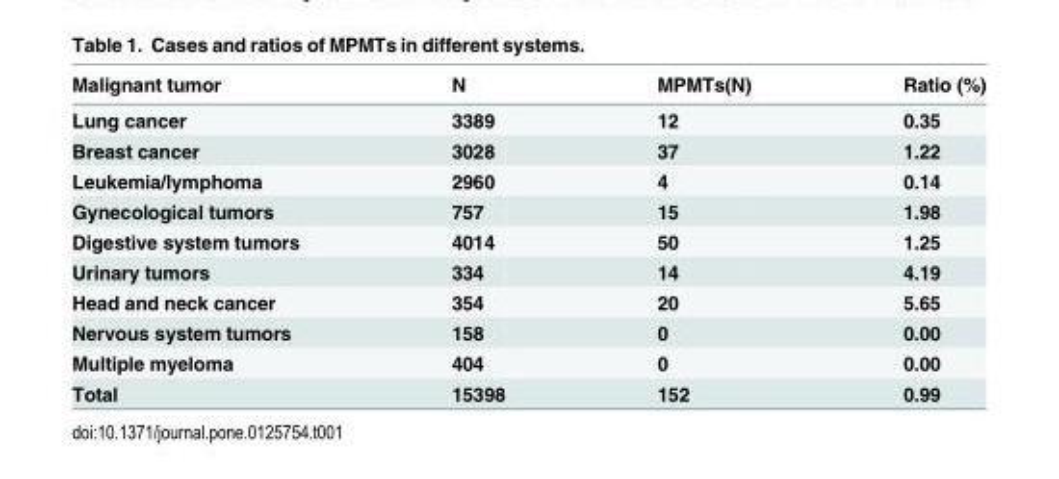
<table><thead><tr><td>Malignant tumor</td><td>N</td><td>MPMTs(N)</td><td>Ratio (%)</td></tr></thead><tbody><tr><td>Lung cancer</td><td>3389</td><td>12</td><td>0.35</td></tr><tr><td>Breast cancer</td><td>3028</td><td>37</td><td>1.22</td></tr><tr><td>Leukemia/lymphoma</td><td>2960</td><td>4</td><td>0.14</td></tr><tr><td>Gynecological tumors</td><td>757</td><td>15</td><td>1.98</td></tr><tr><td>Digestive system tumors</td><td>4014</td><td>50</td><td>1.25</td></tr><tr><td>Urinary tumors</td><td>334</td><td>14</td><td>4.19</td></tr><tr><td>Head and neck cancer</td><td>354</td><td>20</td><td>5.65</td></tr><tr><td>Nervous system tumors</td><td>158</td><td>0</td><td>0.00</td></tr><tr><td>Multiple myeloma</td><td>404</td><td>0</td><td>0.00</td></tr><tr><td>Total</td><td>15398</td><td>152</td><td>0.99</td></tr></tbody></table>